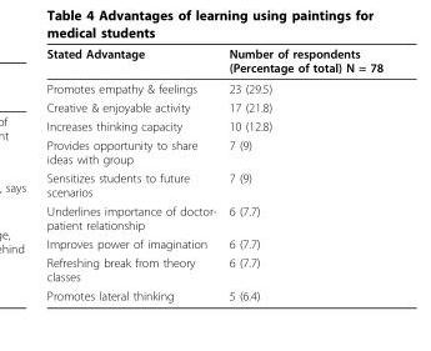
<table><thead><tr><td>Stated Advantage</td><td>Number of respondents (Percentage of total) N = 78</td></tr></thead><tbody><tr><td>Promotes empathy &amp; feelings</td><td>23 (29.5)</td></tr><tr><td>Creative &amp; enjoyable activity</td><td>17 (21.8)</td></tr><tr><td>Increases thinking capacity</td><td>10 (12.8)</td></tr><tr><td>Provides opportunity to share ideas with group</td><td>7 (9)</td></tr><tr><td>Sensitizes students to future scenarios</td><td>7 (9)</td></tr><tr><td>Underlines importance of doctor- patient relationship</td><td>6 (7.7)</td></tr><tr><td>Improves power of imagination</td><td>6 (7.7)</td></tr><tr><td>Refreshing break from theory classes</td><td>6 (7.7)</td></tr><tr><td>Promotes lateral thinking</td><td>5 (6.4)</td></tr></tbody></table>